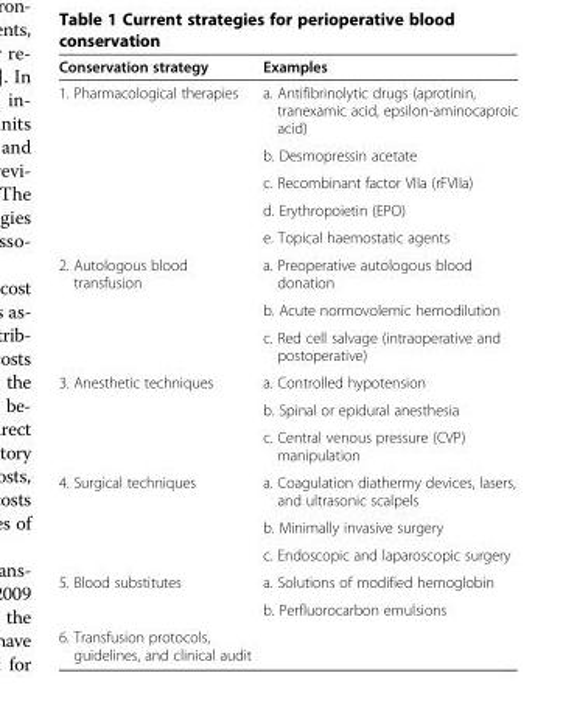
<table><thead><tr><td>Conservation strategy</td><td>Examples</td></tr></thead><tbody><tr><td rowspan="5">1. Pharmacological therapies</td><td>a. Antifibrinolytic drugs (aprotinin, tranexamic acid, epsilon-aminocaproic acid)</td></tr><tr><td>b. Desmopressin acetate</td></tr><tr><td>c. Recombinant factor VIIa (rFVIIa)</td></tr><tr><td>d. Erythropoietin (EPO)</td></tr><tr><td>e. Topical haemostatic agents</td></tr><tr><td rowspan="3">2. Autologous blood transfusion</td><td>a. Preoperative autologous blood donation</td></tr><tr><td>b. Acute normovolemic hemodilution</td></tr><tr><td>c. Red cell salvage (intraoperative and postoperative)</td></tr><tr><td rowspan="3">3. Anesthetic techniques</td><td>a. Controlled hypotension</td></tr><tr><td>b. Spinal or epidural anesthesia</td></tr><tr><td>c. Central venous pressure (CVP) manipulation</td></tr><tr><td rowspan="3">4. Surgical techniques</td><td>a. Coagulation diathermy devices, lasers, and ultrasonic scalpels</td></tr><tr><td>b. Minimally invasive surgery</td></tr><tr><td>c. Endoscopic and laparoscopic surgery</td></tr><tr><td rowspan="2">5. Blood substitutes</td><td>a. Solutions of modified hemoglobin</td></tr><tr><td>b. Perfluorocarbon emulsions</td></tr><tr><td>6. Transfusion protocols, guidelines, and clinical audit</td><td></td></tr></tbody></table>